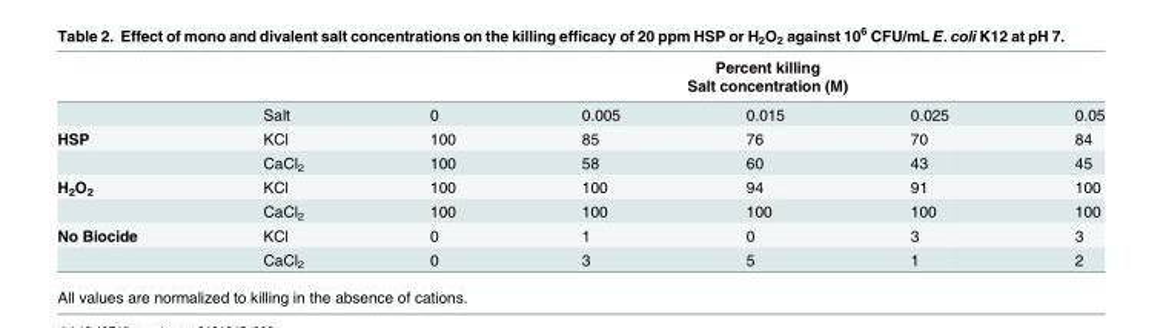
<table><thead><tr><td rowspan="3"></td><td rowspan="3">Salt</td><td rowspan="2" colspan="5">Percent killing Salt concentration (M)</td></tr><tr></tr><tr><td>0</td><td>0.005</td><td>0.015</td><td>0.025</td><td>0.05</td></tr></thead><tbody><tr><td rowspan="2">HSP</td><td>KCl</td><td>100</td><td>85</td><td>76</td><td>70</td><td>84</td></tr><tr><td>CaCl<sub>2</sub></td><td>100</td><td>58</td><td>60</td><td>43</td><td>45</td></tr><tr><td rowspan="2">H<sub>2</sub>O<sub>2</sub></td><td>KCl</td><td>100</td><td>100</td><td>94</td><td>91</td><td>100</td></tr><tr><td>CaCl<sub>2</sub></td><td>100</td><td>100</td><td>100</td><td>100</td><td>100</td></tr><tr><td rowspan="2">No Biocide</td><td>KCl</td><td>0</td><td>1</td><td>0</td><td>3</td><td>3</td></tr><tr><td>CaCl<sub>2</sub></td><td>0</td><td>3</td><td>5</td><td>1</td><td>2</td></tr></tbody></table>